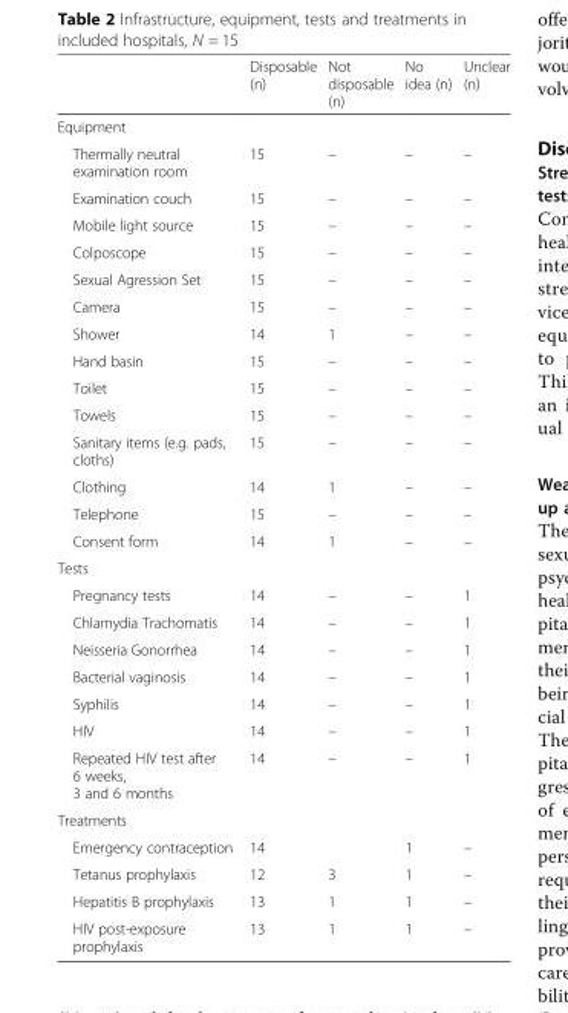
<table><thead><tr><td></td><td>Disposable (n)</td><td>Not disposable (n)</td><td>No idea (n)</td><td>Unclear (n)</td></tr></thead><tbody><tr><td colspan="5">Equipment</td></tr><tr><td>Thermally neutral examination room</td><td>15</td><td>–</td><td>–</td><td>–</td></tr><tr><td>Examination couch</td><td>15</td><td>–</td><td>–</td><td>–</td></tr><tr><td>Mobile light source</td><td>15</td><td>–</td><td>–</td><td>–</td></tr><tr><td>Colposcope</td><td>15</td><td>–</td><td>–</td><td>–</td></tr><tr><td>Sexual Agression Set</td><td>15</td><td>–</td><td>–</td><td>–</td></tr><tr><td>Camera</td><td>15</td><td>–</td><td>–</td><td>–</td></tr><tr><td>Shower</td><td>14</td><td>1</td><td>–</td><td>–</td></tr><tr><td>Hand basin</td><td>15</td><td>–</td><td>–</td><td>–</td></tr><tr><td>Toilet</td><td>15</td><td>–</td><td>–</td><td>–</td></tr><tr><td>Towels</td><td>15</td><td>–</td><td>–</td><td>–</td></tr><tr><td>Sanitary items (e.g. pads, cloths)</td><td>15</td><td>–</td><td>–</td><td>–</td></tr><tr><td>Clothing</td><td>14</td><td>1</td><td>–</td><td>–</td></tr><tr><td>Telephone</td><td>15</td><td>–</td><td>–</td><td>–</td></tr><tr><td>Consent form</td><td>14</td><td>1</td><td>–</td><td>–</td></tr><tr><td colspan="5">Tests</td></tr><tr><td>Pregnancy tests</td><td>14</td><td>–</td><td>–</td><td>1</td></tr><tr><td>Chlamydia Trachomatis</td><td>14</td><td>–</td><td>–</td><td>1</td></tr><tr><td>Neisseria Gonorrhea</td><td>14</td><td>–</td><td>–</td><td>1</td></tr><tr><td>Bacterial vaginosis</td><td>14</td><td>–</td><td>–</td><td>1</td></tr><tr><td>Syphilis</td><td>14</td><td>–</td><td>–</td><td>1</td></tr><tr><td>HIV</td><td>14</td><td>–</td><td>–</td><td>1</td></tr><tr><td>Repeated HIV test after 6 weeks, 3 and 6 months</td><td>14</td><td>–</td><td>–</td><td>1</td></tr><tr><td colspan="5">Treatments</td></tr><tr><td>Emergency contraception</td><td>14</td><td></td><td>1</td><td>–</td></tr><tr><td>Tetanus prophylaxis</td><td>12</td><td>3</td><td>1</td><td>–</td></tr><tr><td>Hepatitis B prophylaxis</td><td>13</td><td>1</td><td>1</td><td>–</td></tr><tr><td>HIV post-exposure prophylaxis</td><td>13</td><td>1</td><td>1</td><td>–</td></tr></tbody></table>